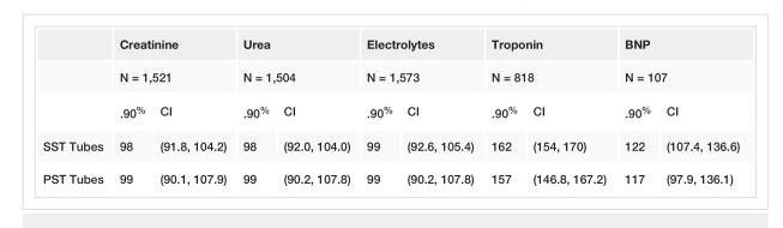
<table><thead><tr><td rowspan="3"></td><td rowspan="2" colspan="2">Creatinine N = 1,521</td><td rowspan="2" colspan="2">Urea N = 1,504</td><td rowspan="2" colspan="2">Electrolytes N = 1,573</td><td rowspan="2" colspan="2">Troponin N = 818</td><td rowspan="2" colspan="2">BNP N = 107</td></tr><tr></tr><tr><td>.90<sup>%</sup></td><td>CI</td><td>.90<sup>%</sup></td><td>CI</td><td>.90<sup>%</sup></td><td>CI</td><td>.90<sup>%</sup></td><td>CI</td><td>.90<sup>%</sup></td><td>CI</td></tr></thead><tbody><tr><td>SST Tubes</td><td>98</td><td>(91.8, 104.2)</td><td>98</td><td>(92.0, 104.0)</td><td>99</td><td>(92.6, 105.4)</td><td>162</td><td>(154, 170)</td><td>122</td><td>(107.4, 136.6)</td></tr><tr><td>PST Tubes</td><td>99</td><td>(90.1, 107.9)</td><td>99</td><td>(90.2, 107.8)</td><td>99</td><td>(90.2, 107.8)</td><td>157</td><td>(146.8, 167.2)</td><td>117</td><td>(97.9, 136.1)</td></tr></tbody></table>